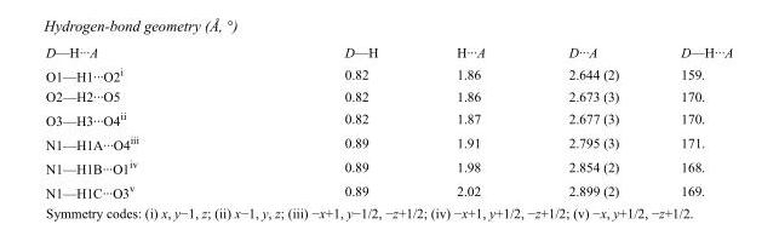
<table><tbody><tr><td>D—H···A</td><td>D—H</td><td>H···A</td><td>D···A</td><td>D—H···A</td></tr><tr><td>O1—H1···O2<sup>i</sup></td><td>0.82</td><td>1.86</td><td>2.644 (2)</td><td>159.</td></tr><tr><td>O2—H2···O5</td><td>0.82</td><td>1.86</td><td>2.673 (3)</td><td>170.</td></tr><tr><td>O3—H3···O4<sup>ii</sup></td><td>0.82</td><td>1.87</td><td>2.677 (3)</td><td>170.</td></tr><tr><td>N1—H1A···O4<sup>iii</sup></td><td>0.89</td><td>1.91</td><td>2.795 (3)</td><td>171.</td></tr><tr><td>N1—H1B···O1<sup>iv</sup></td><td>0.89</td><td>1.98</td><td>2.854 (2)</td><td>168.</td></tr><tr><td>N1—H1C···O3<sup>v</sup></td><td>0.89</td><td>2.02</td><td>2.899 (2)</td><td>169.</td></tr></tbody></table>